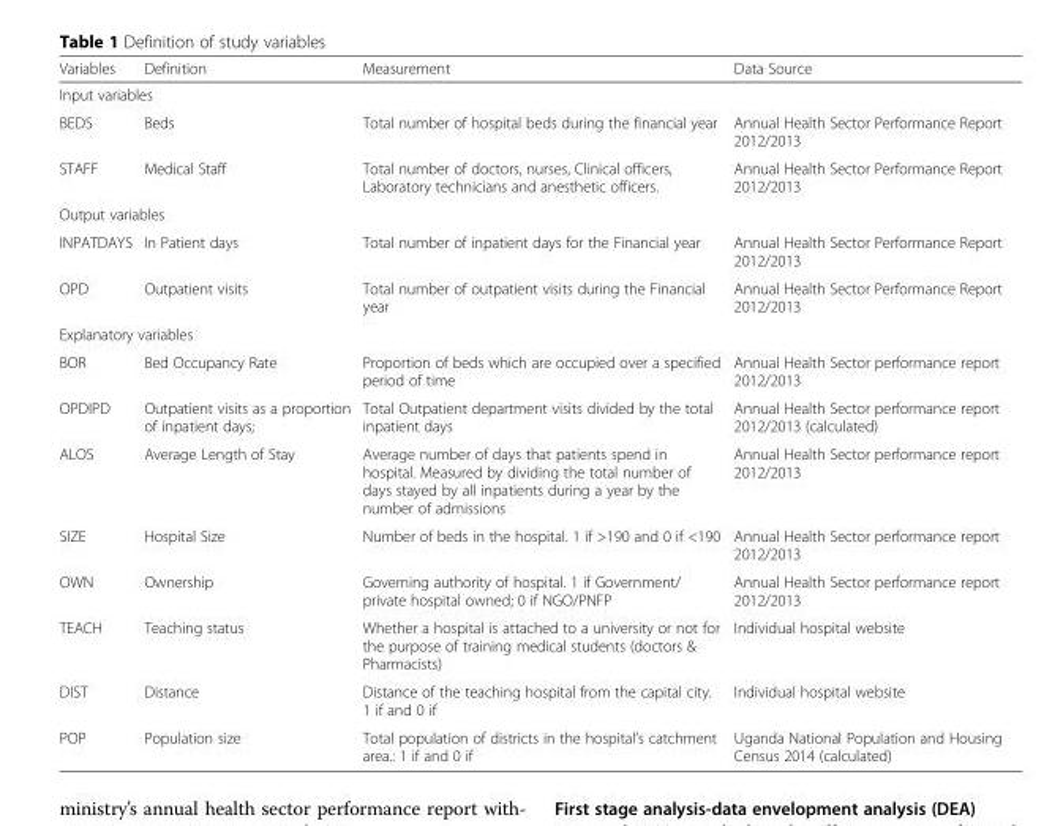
<table><thead><tr><td>Variables</td><td>Definition</td><td>Measurement</td><td>Data Source</td></tr></thead><tbody><tr><td colspan="4">Input variables</td></tr><tr><td>BEDS</td><td>Beds</td><td>Total number of hospital beds during the financial year</td><td>Annual Health Sector Performance Report 2012/2013</td></tr><tr><td>STAFF</td><td>Medical Staff</td><td>Total number of doctors, nurses, Clinical officers, Laboratory technicians and anesthetic officers.</td><td>Annual Health Sector Performance Report 2012/2013</td></tr><tr><td colspan="4">Output variables</td></tr><tr><td>INPATDAYS</td><td>In Patient days</td><td>Total number of inpatient days for the Financial year</td><td>Annual Health Sector Performance Report 2012/2013</td></tr><tr><td>OPD</td><td>Outpatient visits</td><td>Total number of outpatient visits during the Financial year</td><td>Annual Health Sector Performance Report 2012/2013</td></tr><tr><td colspan="4">Explanatory variables</td></tr><tr><td>BOR</td><td>Bed Occupancy Rate</td><td>Proportion of beds which are occupied over a specified period of time</td><td>Annual Health Sector performance report 2012/2013</td></tr><tr><td>OPDIPD</td><td>Outpatient visits as a proportion of inpatient days;</td><td>Total Outpatient department visits divided by the total inpatient days</td><td>Annual Health Sector performance report 2012/2013 (calculated)</td></tr><tr><td>ALOS</td><td>Average Length of Stay</td><td>Average number of days that patients spend in hospital. Measured by dividing the total number of days stayed by all inpatients during a year by the number of admissions</td><td>Annual Health Sector performance report 2012/2013</td></tr><tr><td>SIZE</td><td>Hospital Size</td><td>Number of beds in the hospital. 1 if &gt;190 and 0 if &lt;190</td><td>Annual Health Sector performance report 2012/2013</td></tr><tr><td>OWN</td><td>Ownership</td><td>Governing authority of hospital. 1 if Government/ private hospital owned; 0 if NGO/PNFP</td><td>Annual Health Sector performance report 2012/2013</td></tr><tr><td>TEACH</td><td>Teaching status</td><td>Whether a hospital is attached to a university or not for the purpose of training medical students (doctors &amp; Pharmacists)</td><td>Individual hospital website</td></tr><tr><td>DIST</td><td>Distance</td><td>Distance of the teaching hospital from the capital city. 1 if and 0 if</td><td>Individual hospital website</td></tr><tr><td>POP</td><td>Population size</td><td>Total population of districts in the hospital’s catchment area.: 1 if and 0 if</td><td>Uganda National Population and Housing Census 2014 (calculated)</td></tr></tbody></table>